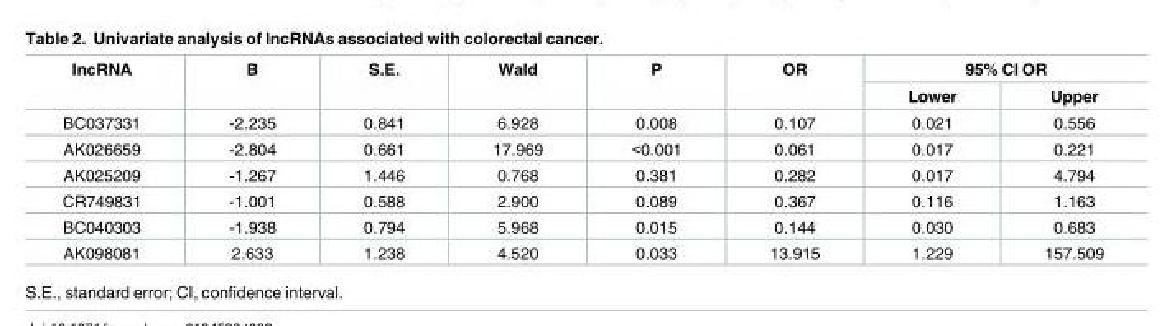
<table><thead><tr><td rowspan="2">lncRNA</td><td rowspan="2">B</td><td rowspan="2">S.E.</td><td rowspan="2">Wald</td><td rowspan="2">P</td><td rowspan="2">OR</td><td colspan="2">95% CI OR</td></tr><tr><td>Lower</td><td>Upper</td></tr></thead><tbody><tr><td>BC037331</td><td>-2.235</td><td>0.841</td><td>6.928</td><td>0.008</td><td>0.107</td><td>0.021</td><td>0.556</td></tr><tr><td>AK026659</td><td>-2.804</td><td>0.661</td><td>17.969</td><td>&lt;0.001</td><td>0.061</td><td>0.017</td><td>0.221</td></tr><tr><td>AK025209</td><td>-1.267</td><td>1.446</td><td>0.768</td><td>0.381</td><td>0.282</td><td>0.017</td><td>4.794</td></tr><tr><td>CR749831</td><td>-1.001</td><td>0.588</td><td>2.900</td><td>0.089</td><td>0.367</td><td>0.116</td><td>1.163</td></tr><tr><td>BC040303</td><td>-1.938</td><td>0.794</td><td>5.968</td><td>0.015</td><td>0.144</td><td>0.030</td><td>0.683</td></tr><tr><td>AK098081</td><td>2.633</td><td>1.238</td><td>4.520</td><td>0.033</td><td>13.915</td><td>1.229</td><td>157.509</td></tr></tbody></table>